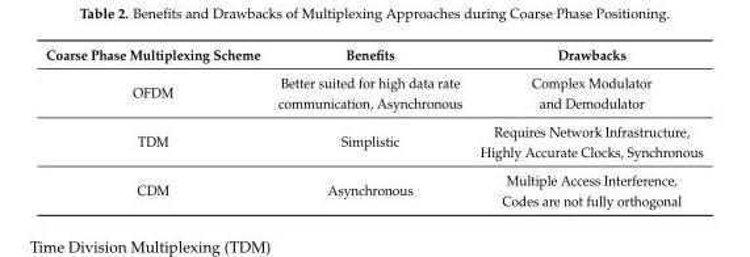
<table><thead><tr><td>Coarse Phase Multiplexing Scheme</td><td>Benefits</td><td>Drawbacks</td></tr></thead><tbody><tr><td>OFDM</td><td>Better suited for high data rate communication, Asynchronous</td><td>Complex Modulator and Demodulator</td></tr><tr><td>TDM</td><td>Simplistic</td><td>Requires Network Infrastructure, Highly Accurate Clocks, Synchronous</td></tr><tr><td>CDM</td><td>Asynchronous</td><td>Multiple Access Interference, Codes are not fully orthogonal</td></tr></tbody></table>